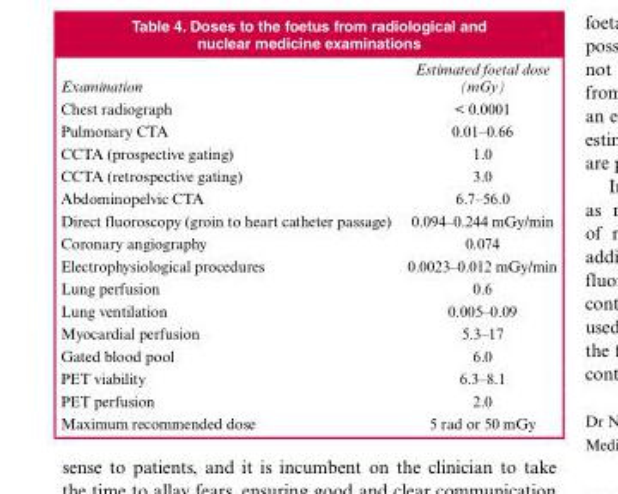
<table><thead><tr><td>Examination</td><td>Estimated foetal dose (mGy)</td></tr></thead><tbody><tr><td>Chest radiograph</td><td>&lt; 0.0001</td></tr><tr><td>Pulmonary CTA</td><td>0.01–0.66</td></tr><tr><td>CCTA (prospective gating)</td><td>1.0</td></tr><tr><td>CCTA (retrospective gating)</td><td>3.0</td></tr><tr><td>Abdominopelvic CTA</td><td>6.7–56.0</td></tr><tr><td>Direct fluoroscopy (groin to heart catheter passage)</td><td>0.094–0.244 mGy/min</td></tr><tr><td>Coronary angiography</td><td>0.074</td></tr><tr><td>Electrophysiological procedures</td><td>0.0023–0.012 mGy/min</td></tr><tr><td>Lung perfusion</td><td>0.6</td></tr><tr><td>Lung ventilation</td><td>0.005–0.09</td></tr><tr><td>Myocardial perfusion</td><td>5.3–17</td></tr><tr><td>Gated blood pool</td><td>6.0</td></tr><tr><td>PET viability</td><td>6.3–8.1</td></tr><tr><td>PET perfusion</td><td>2.0</td></tr><tr><td>Maximum recommended dose</td><td>5 rad or 50 mGy</td></tr></tbody></table>